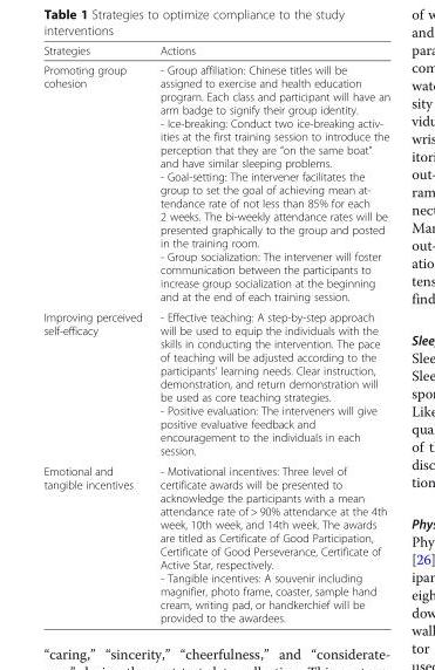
<table><thead><tr><td>Strategies</td><td>Actions</td></tr></thead><tbody><tr><td>Promoting group cohesion</td><td>- Group affiliation: Chinese titles will be assigned to exercise and health education program. Each class and participant will have an arm badge to signify their group identity. - Ice-breaking: Conduct two ice-breaking activ- ities at the first training session to introduce the perception that they are “on the same boat” and have similar sleeping problems. - Goal-setting: The intervener facilitates the group to set the goal of achieving mean at- tendance rate of not less than 85% for each 2 weeks. The bi-weekly attendance rates will be presented graphically to the group and posted in the training room. - Group socialization: The intervener will foster communication between the participants to increase group socialization at the beginning and at the end of each training session.</td></tr><tr><td>Improving perceived self-efficacy</td><td>- Effective teaching: A step-by-step approach will be used to equip the individuals with the skills in conducting the intervention. The pace of teaching will be adjusted according to the participants’ learning needs. Clear instruction, demonstration, and return demonstration will be used as core teaching strategies. - Positive evaluation: The interveners will give positive evaluative feedback and encouragement to the individuals in each session.</td></tr><tr><td>Emotional and tangible incentives</td><td>- Motivational incentives: Three level of certificate awards will be presented to acknowledge the participants with a mean attendance rate of &gt; 90% attendance at the 4th week, 10th week, and 14th week. The awards are titled as Certificate of Good Participation, Certificate of Good Perseverance, Certificate of Active Star, respectively. - Tangible incentives: A souvenir including magnifier, photo frame, coaster, sample hand cream, writing pad, or handkerchief will be provided to the awardees.</td></tr></tbody></table>